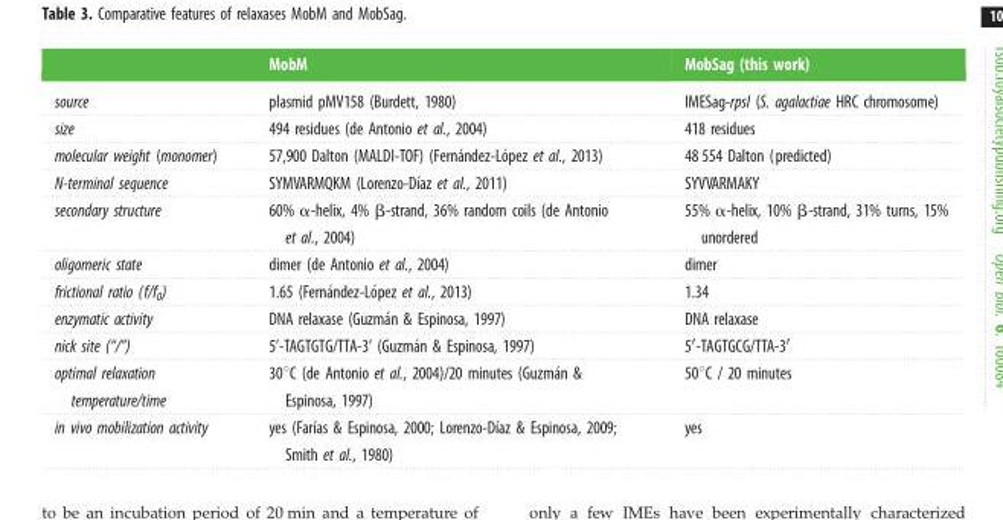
<table><thead><tr><td></td><td>MobM</td><td>MobSag (this work)</td></tr></thead><tbody><tr><td>source</td><td>plasmid pMV158 (Burdett, 1980)</td><td>IMESag-rpsI (S. agalactiae HRC chromosome)</td></tr><tr><td>size</td><td>494 residues (de Antonio et al., 2004)</td><td>418 residues</td></tr><tr><td>molecular weight (monomer)</td><td>57,900 Dalton (MALDI-TOF) (Ferna´ndez-Lo´pez et al., 2013)</td><td>48 554 Dalton (predicted)</td></tr><tr><td>N-terminal sequence</td><td>SYMVARMQKM (Lorenzo-Dı´az et al., 2011)</td><td>SYVVARMAKY</td></tr><tr><td>secondary structure</td><td>60% α-helix, 4% β-strand, 36% random coils (de Antonio et al., 2004)</td><td>55% α-helix, 10% β-strand, 31% turns, 15% unordered</td></tr><tr><td>oligomeric state</td><td>dimer (de Antonio et al., 2004)</td><td>dimer</td></tr><tr><td>frictional ratio (f/f<sub>0</sub>)</td><td>1.65 (Ferna´ndez-Lo´pez et al., 2013)</td><td>1.34</td></tr><tr><td>enzymatic activity</td><td>DNA relaxase (Guzma´n &amp; Espinosa, 1997)</td><td>DNA relaxase</td></tr><tr><td>nick site (“/”)</td><td>5’-TAGTGTG/TTA-3’ (Guzma´n &amp; Espinosa, 1997)</td><td>5′-TAGTGCG/TTA-3′</td></tr><tr><td>optimal relaxation temperature/time</td><td>308C (de Antonio et al., 2004)/20 minutes (Guzma´n &amp; Espinosa, 1997)</td><td>50°C / 20 minutes</td></tr><tr><td>in vivo mobilization activity</td><td>yes (Farı´as &amp; Espinosa, 2000; Lorenzo-Dı´az &amp; Espinosa, 2009; Smith et al., 1980)</td><td>yes</td></tr></tbody></table>